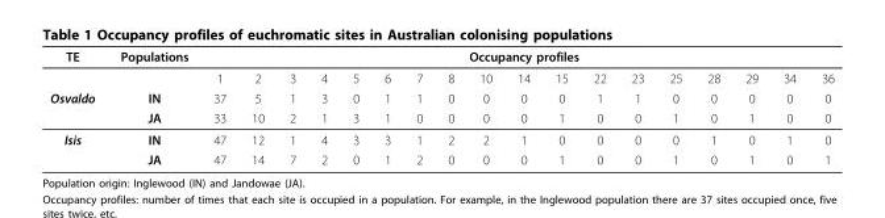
<table><thead><tr><td rowspan="2">TE</td><td rowspan="2">Populations</td><td colspan="18">Occupancy profiles</td></tr><tr><td>1</td><td>2</td><td>3</td><td>4</td><td>5</td><td>6</td><td>7</td><td>8</td><td>10</td><td>14</td><td>15</td><td>22</td><td>23</td><td>25</td><td>28</td><td>29</td><td>34</td><td>36</td></tr></thead><tbody><tr><td rowspan="2">Osvaldo</td><td>IN</td><td>37</td><td>5</td><td>1</td><td>3</td><td>0</td><td>1</td><td>1</td><td>0</td><td>0</td><td>0</td><td>0</td><td>1</td><td>1</td><td>0</td><td>0</td><td>0</td><td>0</td><td>0</td></tr><tr><td>JA</td><td>33</td><td>10</td><td>2</td><td>1</td><td>3</td><td>1</td><td>0</td><td>0</td><td>0</td><td>0</td><td>1</td><td>0</td><td>0</td><td>1</td><td>0</td><td>1</td><td>0</td><td>0</td></tr><tr><td rowspan="2">Isis</td><td>IN</td><td>47</td><td>12</td><td>1</td><td>4</td><td>3</td><td>3</td><td>1</td><td>2</td><td>2</td><td>1</td><td>0</td><td>0</td><td>0</td><td>0</td><td>1</td><td>0</td><td>1</td><td>0</td></tr><tr><td>JA</td><td>47</td><td>14</td><td>7</td><td>2</td><td>0</td><td>1</td><td>2</td><td>0</td><td>0</td><td>0</td><td>1</td><td>0</td><td>0</td><td>1</td><td>0</td><td>1</td><td>0</td><td>1</td></tr></tbody></table>